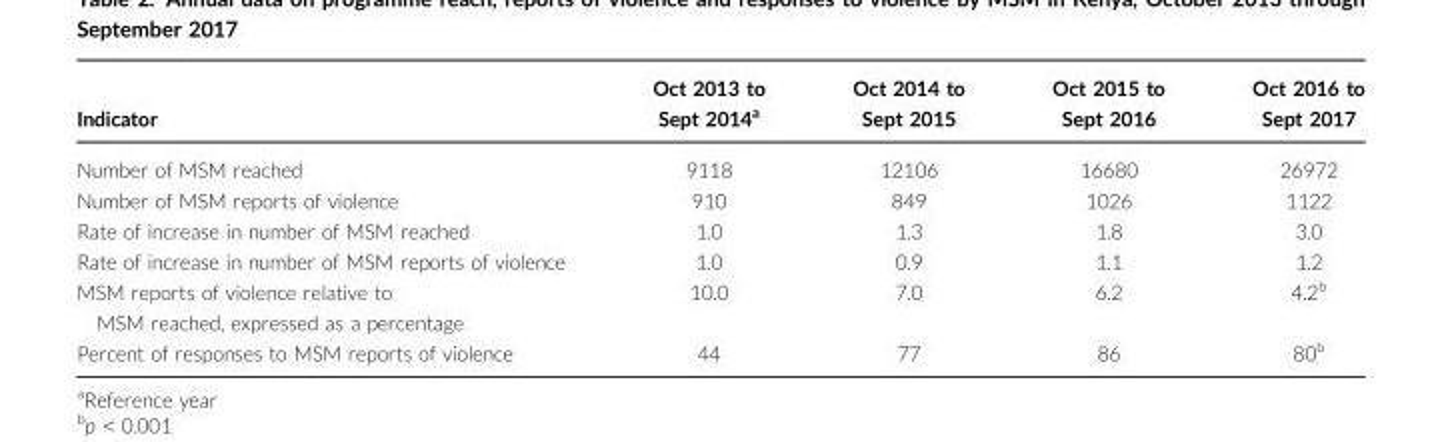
<table><thead><tr><td>Indicator</td><td>Oct 2013 to Sept 2014<sup>a</sup></td><td>Oct 2014 to Sept 2015</td><td>Oct 2015 to Sept 2016</td><td>Oct 2016 to Sept 2017</td></tr></thead><tbody><tr><td>Number of MSM reached</td><td>9118</td><td>12106</td><td>16680</td><td>26972</td></tr><tr><td>Number of MSM reports of violence</td><td>910</td><td>849</td><td>1026</td><td>1122</td></tr><tr><td>Rate of increase in number of MSM reached</td><td>1.0</td><td>1.3</td><td>1.8</td><td>3.0</td></tr><tr><td>Rate of increase in number of MSM reports of violence</td><td>1.0</td><td>0.9</td><td>1.1</td><td>1.2</td></tr><tr><td>MSM reports of violence relative to MSM reached, expressed as a percentage</td><td>10.0</td><td>7.0</td><td>6.2</td><td>4.2<sup>b</sup></td></tr><tr><td>Percent of responses to MSM reports of violence</td><td>44</td><td>77</td><td>86</td><td>80<sup>b</sup></td></tr></tbody></table>